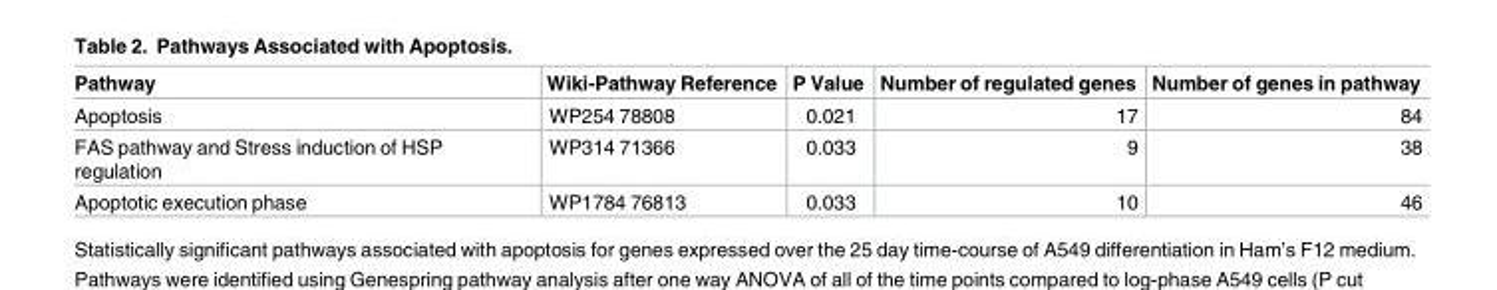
<table><thead><tr><td>Pathway</td><td>Wiki-Pathway Reference</td><td>P Value</td><td>Number of regulated genes</td><td>Number of genes in pathway</td></tr></thead><tbody><tr><td>Apoptosis</td><td>WP254 78808</td><td>0.021</td><td>17</td><td>84</td></tr><tr><td>FAS pathway and Stress induction of HSP regulation</td><td>WP314 71366</td><td>0.033</td><td>9</td><td>38</td></tr><tr><td>Apoptotic execution phase</td><td>WP1784 76813</td><td>0.033</td><td>10</td><td>46</td></tr></tbody></table>